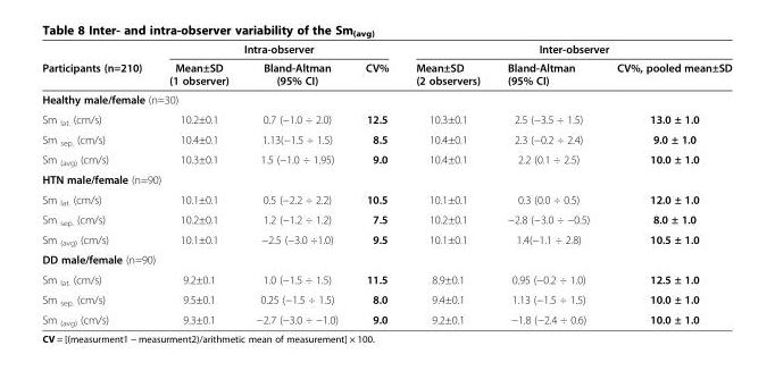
<table><thead><tr><td rowspan="2">Participants (n=210)</td><td colspan="3">Intra-observer</td><td colspan="3">Inter-observer</td></tr><tr><td>Mean±SD (1 observer)</td><td>Bland-Altman (95% CI)</td><td>CV%</td><td>Mean±SD (2 observers)</td><td>Bland-Altman (95% CI)</td><td>CV%, pooled mean±SD</td></tr></thead><tbody><tr><td colspan="7">Healthy male/female (n=30)</td></tr><tr><td>Sm <sub>lat.</sub> (cm/s)</td><td>10.2±0.1</td><td>0.7 (−1.0 ÷ 2.0)</td><td>12.5</td><td>10.3±0.1</td><td>2.5 (−3.5 ÷ 1.5)</td><td>13.0 ± 1.0</td></tr><tr><td>Sm <sub>sep.</sub> (cm/s)</td><td>10.4±0.1</td><td>1.13(−1.5 ÷ 1.5)</td><td>8.5</td><td>10.4±0.1</td><td>2.3 (−0.2 ÷ 2.4)</td><td>9.0 ± 1.0</td></tr><tr><td>Sm <sub>(avg)</sub> (cm/s)</td><td>10.3±0.1</td><td>1.5 (−1.0 ÷ 1.95)</td><td>9.0</td><td>10.4±0.1</td><td>2.2 (0.1 ÷ 2.5)</td><td>10.0 ± 1.0</td></tr><tr><td colspan="7">HTN male/female (n=90)</td></tr><tr><td>Sm <sub>lat.</sub> (cm/s)</td><td>10.1±0.1</td><td>0.5 (−2.2 ÷ 2.2)</td><td>10.5</td><td>10.1±0.1</td><td>0.3 (0.0 ÷ 0.5)</td><td>12.0 ± 1.0</td></tr><tr><td>Sm <sub>sep.</sub> (cm/s)</td><td>10.2±0.1</td><td>1.2 (−1.2 ÷ 1.2)</td><td>7.5</td><td>10.2±0.1</td><td>−2.8 (−3.0 ÷ −0.5)</td><td>8.0 ± 1.0</td></tr><tr><td>Sm <sub>(avg)</sub> (cm/s)</td><td>10.1±0.1</td><td>−2.5 (−3.0 ÷1.0)</td><td>9.5</td><td>10.1±0.1</td><td>1.4(−1.1 ÷ 2.8)</td><td>10.5 ± 1.0</td></tr><tr><td colspan="7">DD male/female (n=90)</td></tr><tr><td>Sm <sub>lat.</sub> (cm/s)</td><td>9.2±0.1</td><td>1.0 (−1.5 ÷ 1.5)</td><td>11.5</td><td>8.9±0.1</td><td>0.95 (−0.2 ÷ 1.0)</td><td>12.5 ± 1.0</td></tr><tr><td>Sm <sub>sep.</sub> (cm/s)</td><td>9.5±0.1</td><td>0.25 (−1.5 ÷ 1.5)</td><td>8.0</td><td>9.4±0.1</td><td>1.13 (−1.5 ÷ 1.5)</td><td>10.0 ± 1.0</td></tr><tr><td>Sm <sub>(avg)</sub> (cm/s)</td><td>9.3±0.1</td><td>−2.7 (−3.0 ÷ −1.0)</td><td>9.0</td><td>9.2±0.1</td><td>−1.8 (−2.4 ÷ 0.6)</td><td>10.0 ± 1.0</td></tr></tbody></table>